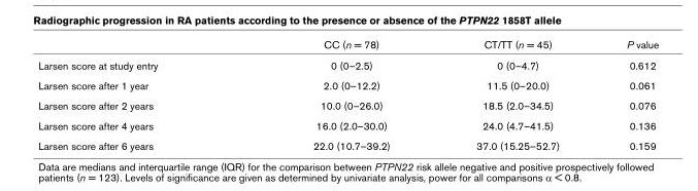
<table><thead><tr><td></td><td>CC (n = 78)</td><td>CT/TT (n = 45)</td><td>P value</td></tr></thead><tbody><tr><td>Larsen score at study entry</td><td>0 (0–2.5)</td><td>0 (0–4.7)</td><td>0.612</td></tr><tr><td>Larsen score after 1 year</td><td>2.0 (0–12.2)</td><td>11.5 (0–20.0)</td><td>0.061</td></tr><tr><td>Larsen score after 2 years</td><td>10.0 (0–26.0)</td><td>18.5 (2.0–34.5)</td><td>0.076</td></tr><tr><td>Larsen score after 4 years</td><td>16.0 (2.0–30.0)</td><td>24.0 (4.7–41.5)</td><td>0.136</td></tr><tr><td>Larsen score after 6 years</td><td>22.0 (10.7–39.2)</td><td>37.0 (15.25–52.7)</td><td>0.159</td></tr></tbody></table>